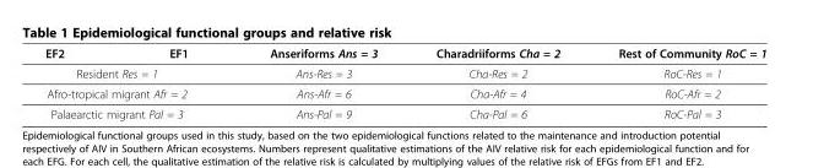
<table><thead><tr><td>EF2</td><td>EF1</td><td>Anseriforms Ans = 3</td><td>Charadriiforms Cha = 2</td><td>Rest of Community RoC = 1</td></tr></thead><tbody><tr><td colspan="2">Resident Res = 1</td><td>Ans-Res = 3</td><td>Cha-Res = 2</td><td>RoC-Res = 1</td></tr><tr><td colspan="2">Afro-tropical migrant Afr = 2</td><td>Ans-Afr = 6</td><td>Cha-Afr = 4</td><td>RoC-Afr = 2</td></tr><tr><td colspan="2">Palaearctic migrant Pal = 3</td><td>Ans-Pal = 9</td><td>Cha-Pal = 6</td><td>RoC-Pal = 3</td></tr></tbody></table>